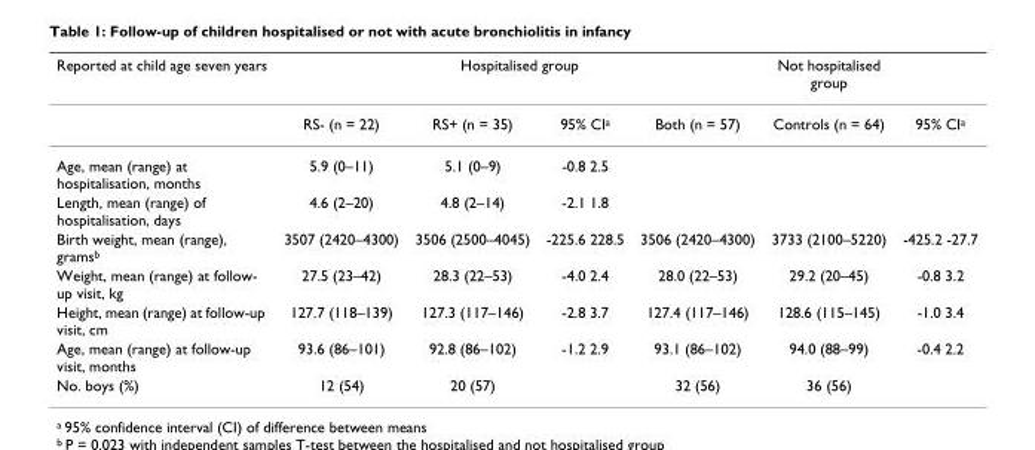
<table><thead><tr><td rowspan="2">Reported at child age seven years</td><td colspan="4">Hospitalised group</td><td rowspan="2">Not hospitalised group Controls (n = 64)</td><td rowspan="2">95% CIa</td></tr><tr><td>RS- (n = 22)</td><td>RS+ (n = 35)</td><td>95% CIa</td><td>Both (n = 57)</td></tr></thead><tbody><tr><td>Age, mean (range) at hospitalisation, months</td><td>5.9 (0–11)</td><td>5.1 (0–9)</td><td>-0.8 2.5</td><td></td><td></td><td></td></tr><tr><td>Length, mean (range) of hospitalisation, days</td><td>4.6 (2–20)</td><td>4.8 (2–14)</td><td>-2.1 1.8</td><td></td><td></td><td></td></tr><tr><td>Birth weight, mean (range), grams<sup>b</sup></td><td>3507 (2420–4300)</td><td>3506 (2500–4045)</td><td>-225.6 228.5</td><td>3506 (2420–4300)</td><td>3733 (2100–5220)</td><td>-425.2 -27.7</td></tr><tr><td>Weight, mean (range) at follow- up visit, kg</td><td>27.5 (23–42)</td><td>28.3 (22–53)</td><td>-4.0 2.4</td><td>28.0 (22–53)</td><td>29.2 (20–45)</td><td>-0.8 3.2</td></tr><tr><td>Height, mean (range) at follow-up visit, cm</td><td>127.7 (118–139)</td><td>127.3 (117–146)</td><td>-2.8 3.7</td><td>127.4 (117–146)</td><td>128.6 (115–145)</td><td>-1.0 3.4</td></tr><tr><td>Age, mean (range) at follow-up visit, months</td><td>93.6 (86–101)</td><td>92.8 (86–102)</td><td>-1.2 2.9</td><td>93.1 (86–102)</td><td>94.0 (88–99)</td><td>-0.4 2.2</td></tr><tr><td>No. boys (%)</td><td>12 (54)</td><td>20 (57)</td><td></td><td>32 (56)</td><td>36 (56)</td><td></td></tr></tbody></table>